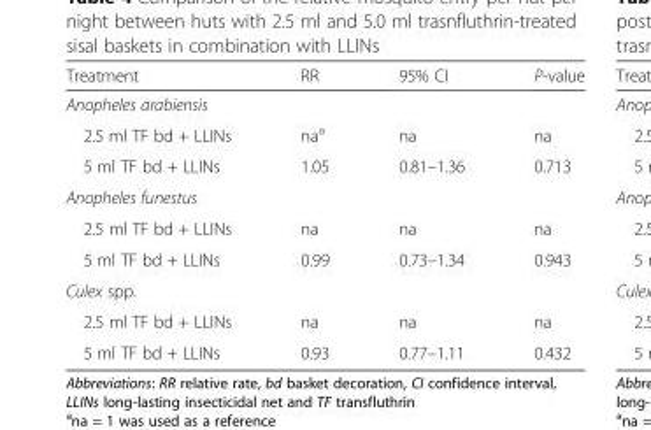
<table><thead><tr><td>Treatment</td><td>RR</td><td>95% CI</td><td>P-value</td></tr></thead><tbody><tr><td colspan="4">Anopheles arabiensis</td></tr><tr><td>2.5 ml TF bd + LLINs</td><td>na<sup>a</sup></td><td>na</td><td>na</td></tr><tr><td>5 ml TF bd + LLINs</td><td>1.05</td><td>0.81–1.36</td><td>0.713</td></tr><tr><td colspan="4">Anopheles funestus</td></tr><tr><td>2.5 ml TF bd + LLINs</td><td>na</td><td>na</td><td>na</td></tr><tr><td>5 ml TF bd + LLINs</td><td>0.99</td><td>0.73–1.34</td><td>0.943</td></tr><tr><td colspan="4">Culex spp.</td></tr><tr><td>2.5 ml TF bd + LLINs</td><td>na</td><td>na</td><td>na</td></tr><tr><td>5 ml TF bd + LLINs</td><td>0.93</td><td>0.77–1.11</td><td>0.432</td></tr></tbody></table>